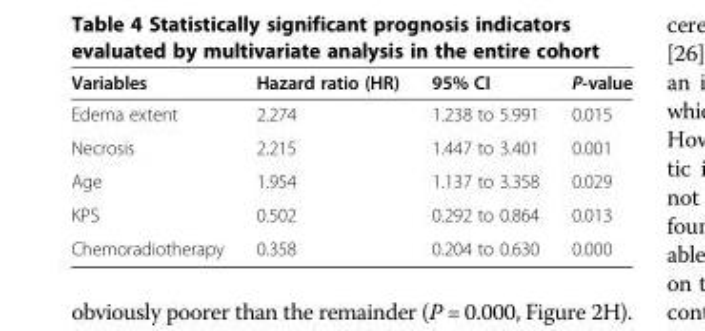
<table><thead><tr><td>Variables</td><td>Hazard ratio (HR)</td><td>95% CI</td><td>P-value</td></tr></thead><tbody><tr><td>Edema extent</td><td>2.274</td><td>1.238 to 5.991</td><td>0.015</td></tr><tr><td>Necrosis</td><td>2.215</td><td>1.447 to 3.401</td><td>0.001</td></tr><tr><td>Age</td><td>1.954</td><td>1.137 to 3.358</td><td>0.029</td></tr><tr><td>KPS</td><td>0.502</td><td>0.292 to 0.864</td><td>0.013</td></tr><tr><td>Chemoradiotherapy</td><td>0.358</td><td>0.204 to 0.630</td><td>0.000</td></tr></tbody></table>